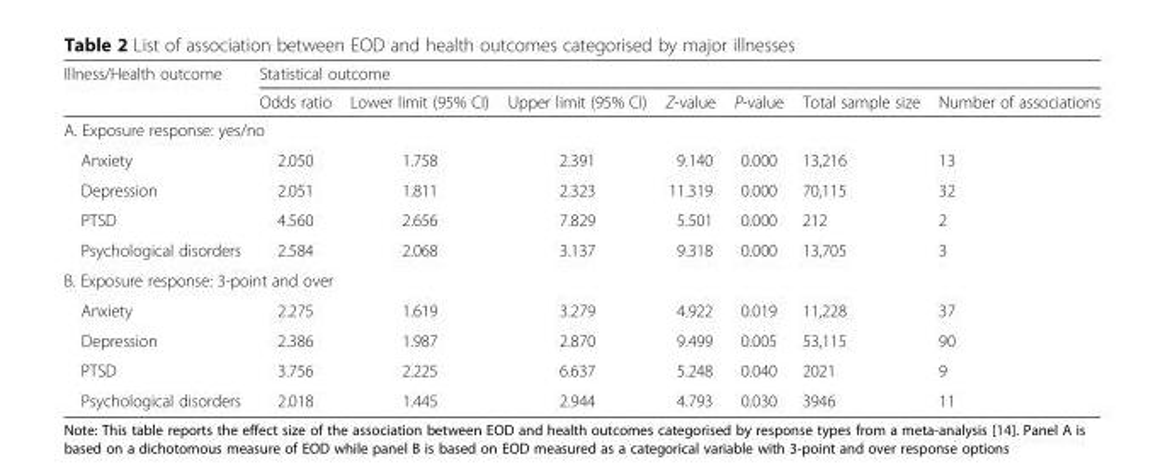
<table><thead><tr><td rowspan="2">Illness/Health outcome</td><td colspan="7">Statistical outcome</td></tr><tr><td>Odds ratio</td><td>Lower limit (95% CI)</td><td>Upper limit (95% CI)</td><td>Z-value</td><td>P-value</td><td>Total sample size</td><td>Number of associations</td></tr></thead><tbody><tr><td colspan="8">A. Exposure response: yes/no</td></tr><tr><td>Anxiety</td><td>2.050</td><td>1.758</td><td>2.391</td><td>9.140</td><td>0.000</td><td>13,216</td><td>13</td></tr><tr><td>Depression</td><td>2.051</td><td>1.811</td><td>2.323</td><td>11.319</td><td>0.000</td><td>70,115</td><td>32</td></tr><tr><td>PTSD</td><td>4.560</td><td>2.656</td><td>7.829</td><td>5.501</td><td>0.000</td><td>212</td><td>2</td></tr><tr><td>Psychological disorders</td><td>2.584</td><td>2.068</td><td>3.137</td><td>9.318</td><td>0.000</td><td>13,705</td><td>3</td></tr><tr><td colspan="8">B. Exposure response: 3-point and over</td></tr><tr><td>Anxiety</td><td>2.275</td><td>1.619</td><td>3.279</td><td>4.922</td><td>0.019</td><td>11,228</td><td>37</td></tr><tr><td>Depression</td><td>2.386</td><td>1.987</td><td>2.870</td><td>9.499</td><td>0.005</td><td>53,115</td><td>90</td></tr><tr><td>PTSD</td><td>3.756</td><td>2.225</td><td>6.637</td><td>5.248</td><td>0.040</td><td>2021</td><td>9</td></tr><tr><td>Psychological disorders</td><td>2.018</td><td>1.445</td><td>2.944</td><td>4.793</td><td>0.030</td><td>3946</td><td>11</td></tr></tbody></table>